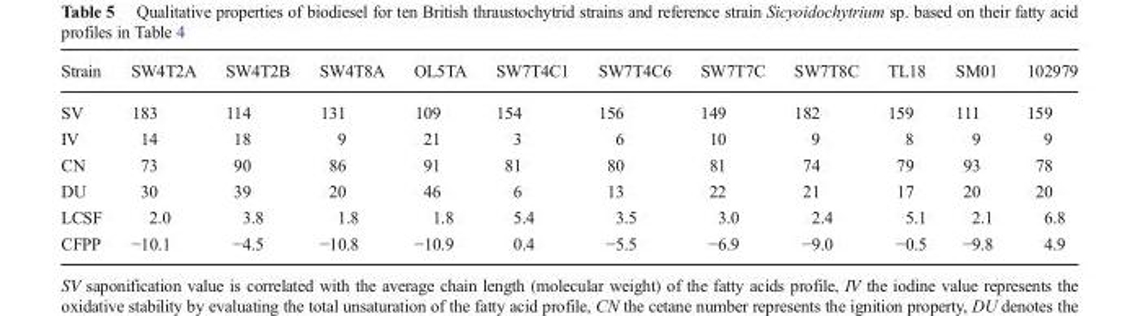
<table><thead><tr><td>Strain</td><td>SW4T2A</td><td>SW4T2B</td><td>SW4T8A</td><td>OL5TA</td><td>SW7T4C1</td><td>SW7T4C6</td><td>SW7T7C</td><td>SW7T8C</td><td>TL18</td><td>SM01</td><td>102979</td></tr></thead><tbody><tr><td>SV</td><td>183</td><td>114</td><td>131</td><td>109</td><td>154</td><td>156</td><td>149</td><td>182</td><td>159</td><td>111</td><td>159</td></tr><tr><td>IV</td><td>14</td><td>18</td><td>9</td><td>21</td><td>3</td><td>6</td><td>10</td><td>9</td><td>8</td><td>9</td><td>9</td></tr><tr><td>CN</td><td>73</td><td>90</td><td>86</td><td>91</td><td>81</td><td>80</td><td>81</td><td>74</td><td>79</td><td>93</td><td>78</td></tr><tr><td>DU</td><td>30</td><td>39</td><td>20</td><td>46</td><td>6</td><td>13</td><td>22</td><td>21</td><td>17</td><td>20</td><td>20</td></tr><tr><td>LCSF</td><td>2.0</td><td>3.8</td><td>1.8</td><td>1.8</td><td>5.4</td><td>3.5</td><td>3.0</td><td>2.4</td><td>5.1</td><td>2.1</td><td>6.8</td></tr><tr><td>CFPP</td><td>−10.1</td><td>−4.5</td><td>−10.8</td><td>−10.9</td><td>0.4</td><td>−5.5</td><td>−6.9</td><td>−9.0</td><td>−0.5</td><td>−9.8</td><td>4.9</td></tr></tbody></table>